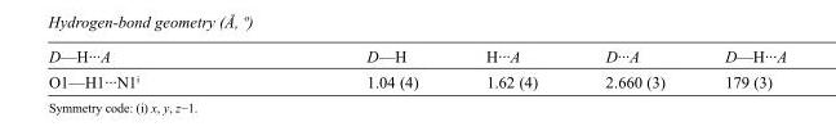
<table><tbody><tr><td>D—H···A</td><td>D—H</td><td>H···A</td><td>D···A</td><td>D—H···A</td></tr><tr><td>O1—H1···N1<sup>i</sup></td><td>1.04 (4)</td><td>1.62 (4)</td><td>2.660 (3)</td><td>179 (3)</td></tr></tbody></table>